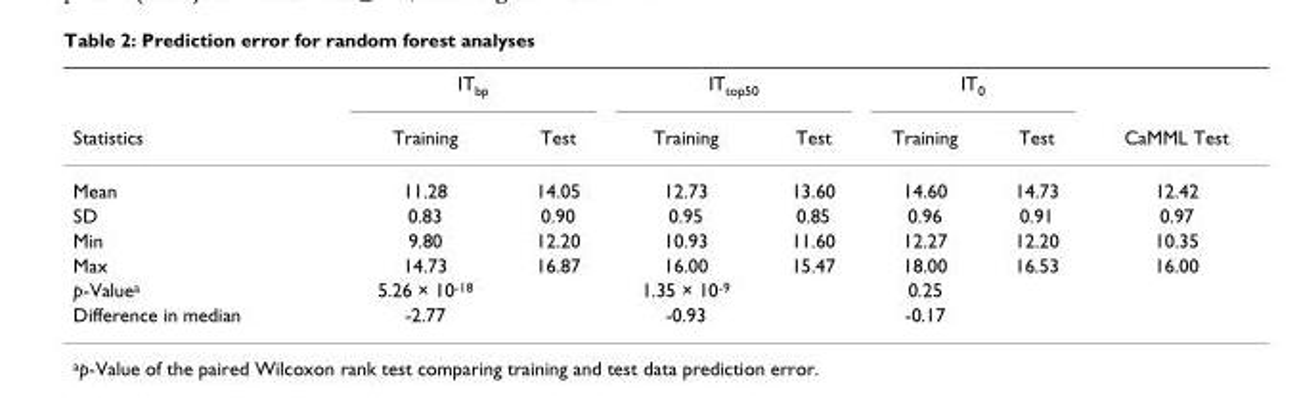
<table><thead><tr><td rowspan="2">Statistics</td><td colspan="2">IT<sub>bp</sub></td><td colspan="2">IT<sub>top50</sub></td><td colspan="2">IT<sub>0</sub></td><td rowspan="2">CaMML Test</td></tr><tr><td>Training</td><td>Test</td><td>Training</td><td>Test</td><td>Training</td><td>Test</td></tr></thead><tbody><tr><td>Mean</td><td>11.28</td><td>14.05</td><td>12.73</td><td>13.60</td><td>14.60</td><td>14.73</td><td>12.42</td></tr><tr><td>SD</td><td>0.83</td><td>0.90</td><td>0.95</td><td>0.85</td><td>0.96</td><td>0.91</td><td>0.97</td></tr><tr><td>Min</td><td>9.80</td><td>12.20</td><td>10.93</td><td>11.60</td><td>12.27</td><td>12.20</td><td>10.35</td></tr><tr><td>Max</td><td>14.73</td><td>16.87</td><td>16.00</td><td>15.47</td><td>18.00</td><td>16.53</td><td>16.00</td></tr><tr><td>p-Value<sup>a</sup></td><td>5.26 × 10<sup>-18</sup></td><td></td><td>1.35 × 10<sup>-9</sup></td><td></td><td>0.25</td><td></td><td></td></tr><tr><td>Difference in median</td><td>-2.77</td><td></td><td>-0.93</td><td></td><td>-0.17</td><td></td><td></td></tr></tbody></table>